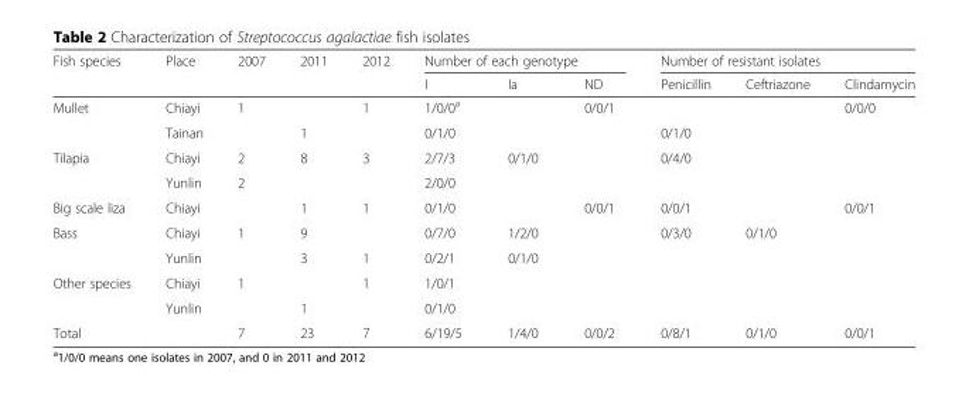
<table><thead><tr><td rowspan="2">Fish species</td><td rowspan="2">Place</td><td rowspan="2">2007</td><td rowspan="2">2011</td><td rowspan="2">2012</td><td colspan="3">Number of each genotype</td><td colspan="3">Number of resistant isolates</td></tr><tr><td>I</td><td>Ia</td><td>ND</td><td>Penicillin</td><td>Ceftriazone</td><td>Clindamycin</td></tr></thead><tbody><tr><td rowspan="2">Mullet</td><td>Chiayi</td><td>1</td><td></td><td>1</td><td>1/0/0<sup>a</sup></td><td></td><td>0/0/1</td><td></td><td></td><td>0/0/0</td></tr><tr><td>Tainan</td><td></td><td>1</td><td></td><td>0/1/0</td><td></td><td></td><td>0/1/0</td><td></td><td></td></tr><tr><td rowspan="2">Tilapia</td><td>Chiayi</td><td>2</td><td>8</td><td>3</td><td>2/7/3</td><td>0/1/0</td><td></td><td>0/4/0</td><td></td><td></td></tr><tr><td>Yunlin</td><td>2</td><td></td><td></td><td>2/0/0</td><td></td><td></td><td></td><td></td><td></td></tr><tr><td>Big scale liza</td><td>Chiayi</td><td></td><td>1</td><td>1</td><td>0/1/0</td><td></td><td>0/0/1</td><td>0/0/1</td><td></td><td>0/0/1</td></tr><tr><td rowspan="2">Bass</td><td>Chiayi</td><td>1</td><td>9</td><td></td><td>0/7/0</td><td>1/2/0</td><td></td><td>0/3/0</td><td>0/1/0</td><td></td></tr><tr><td>Yunlin</td><td></td><td>3</td><td>1</td><td>0/2/1</td><td>0/1/0</td><td></td><td></td><td></td><td></td></tr><tr><td rowspan="2">Other species</td><td>Chiayi</td><td>1</td><td></td><td>1</td><td>1/0/1</td><td></td><td></td><td></td><td></td><td></td></tr><tr><td>Yunlin</td><td></td><td>1</td><td></td><td>0/1/0</td><td></td><td></td><td></td><td></td><td></td></tr><tr><td colspan="2">Total</td><td>7</td><td>23</td><td>7</td><td>6/19/5</td><td>1/4/0</td><td>0/0/2</td><td>0/8/1</td><td>0/1/0</td><td>0/0/1</td></tr></tbody></table>